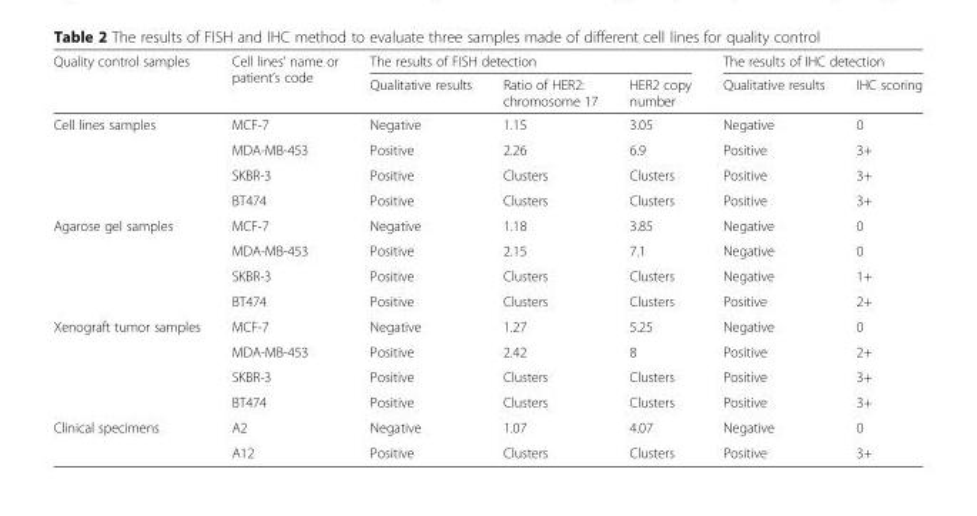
<table><thead><tr><td rowspan="2">Quality control samples</td><td rowspan="2">Cell lines’ name or patient’s code</td><td colspan="3">The results of FISH detection</td><td colspan="2">The results of IHC detection</td></tr><tr><td>Qualitative results</td><td>Ratio of HER2: chromosome 17</td><td>HER2 copy number</td><td>Qualitative results</td><td>IHC scoring</td></tr></thead><tbody><tr><td rowspan="4">Cell lines samples</td><td>MCF-7</td><td>Negative</td><td>1.15</td><td>3.05</td><td>Negative</td><td>0</td></tr><tr><td>MDA-MB-453</td><td>Positive</td><td>2.26</td><td>6.9</td><td>Positive</td><td>3+</td></tr><tr><td>SKBR-3</td><td>Positive</td><td>Clusters</td><td>Clusters</td><td>Positive</td><td>3+</td></tr><tr><td>BT474</td><td>Positive</td><td>Clusters</td><td>Clusters</td><td>Positive</td><td>3+</td></tr><tr><td rowspan="4">Agarose gel samples</td><td>MCF-7</td><td>Negative</td><td>1.18</td><td>3.85</td><td>Negative</td><td>0</td></tr><tr><td>MDA-MB-453</td><td>Positive</td><td>2.15</td><td>7.1</td><td>Negative</td><td>0</td></tr><tr><td>SKBR-3</td><td>Positive</td><td>Clusters</td><td>Clusters</td><td>Negative</td><td>1+</td></tr><tr><td>BT474</td><td>Positive</td><td>Clusters</td><td>Clusters</td><td>Positive</td><td>2+</td></tr><tr><td rowspan="4">Xenograft tumor samples</td><td>MCF-7</td><td>Negative</td><td>1.27</td><td>5.25</td><td>Negative</td><td>0</td></tr><tr><td>MDA-MB-453</td><td>Positive</td><td>2.42</td><td>8</td><td>Positive</td><td>2+</td></tr><tr><td>SKBR-3</td><td>Positive</td><td>Clusters</td><td>Clusters</td><td>Positive</td><td>3+</td></tr><tr><td>BT474</td><td>Positive</td><td>Clusters</td><td>Clusters</td><td>Positive</td><td>3+</td></tr><tr><td rowspan="2">Clinical specimens</td><td>A2</td><td>Negative</td><td>1.07</td><td>4.07</td><td>Negative</td><td>0</td></tr><tr><td>A12</td><td>Positive</td><td>Clusters</td><td>Clusters</td><td>Positive</td><td>3+</td></tr></tbody></table>